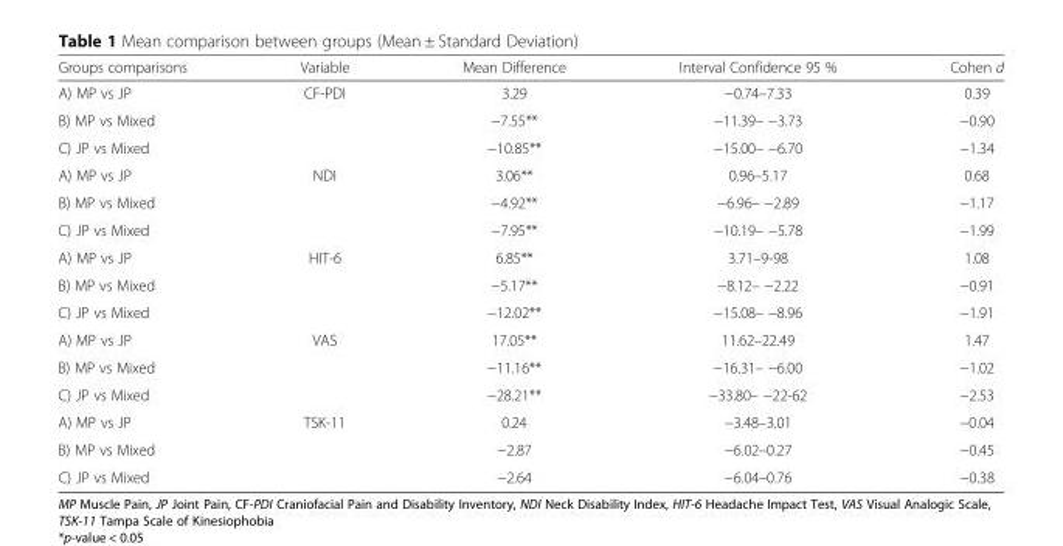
<table><thead><tr><td>Groups comparisons</td><td>Variable</td><td>Mean Difference</td><td>Interval Confidence 95 %</td><td>Cohen d</td></tr></thead><tbody><tr><td>A) MP vs JP</td><td rowspan="3">CF-PDI</td><td>3.29</td><td>−0.74–7.33</td><td>0.39</td></tr><tr><td>B) MP vs Mixed</td><td>−7.55**</td><td>−11.39– −3.73</td><td>−0.90</td></tr><tr><td>C) JP vs Mixed</td><td>−10.85**</td><td>−15.00– −6.70</td><td>−1.34</td></tr><tr><td>A) MP vs JP</td><td rowspan="3">NDI</td><td>3.06**</td><td>0.96–5.17</td><td>0.68</td></tr><tr><td>B) MP vs Mixed</td><td>−4.92**</td><td>−6.96– −2.89</td><td>−1.17</td></tr><tr><td>C) JP vs Mixed</td><td>−7.95**</td><td>−10.19– −5.78</td><td>−1.99</td></tr><tr><td>A) MP vs JP</td><td rowspan="3">HIT-6</td><td>6.85**</td><td>3.71–9-98</td><td>1.08</td></tr><tr><td>B) MP vs Mixed</td><td>−5.17**</td><td>−8.12– −2.22</td><td>−0.91</td></tr><tr><td>C) JP vs Mixed</td><td>−12.02**</td><td>−15.08– −8.96</td><td>−1.91</td></tr><tr><td>A) MP vs JP</td><td rowspan="3">VAS</td><td>17.05**</td><td>11.62–22.49</td><td>1.47</td></tr><tr><td>B) MP vs Mixed</td><td>−11.16**</td><td>−16.31– −6.00</td><td>−1.02</td></tr><tr><td>C) JP vs Mixed</td><td>−28.21**</td><td>−33.80– −22-62</td><td>−2.53</td></tr><tr><td>A) MP vs JP</td><td rowspan="3">TSK-11</td><td>0.24</td><td>−3.48–3.01</td><td>−0.04</td></tr><tr><td>B) MP vs Mixed</td><td>−2.87</td><td>−6.02–0.27</td><td>−0.45</td></tr><tr><td>C) JP vs Mixed</td><td>−2.64</td><td>−6.04–0.76</td><td>−0.38</td></tr></tbody></table>